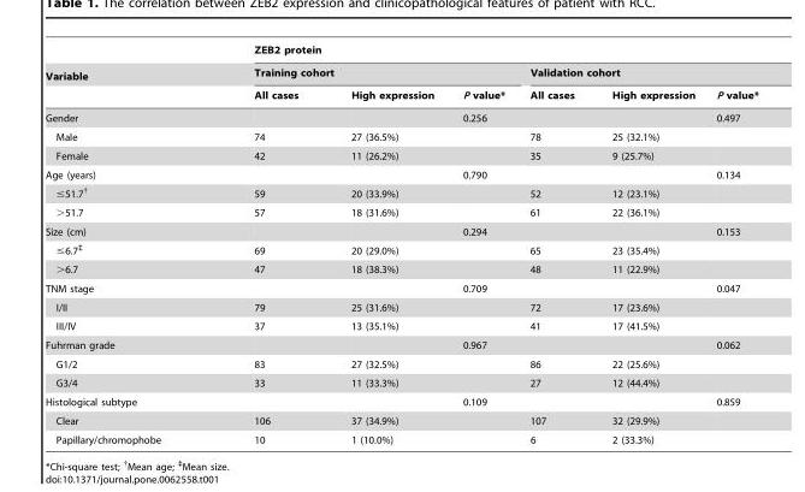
<table><thead><tr><td rowspan="3">Variable</td><td colspan="6">ZEB2 protein</td></tr><tr><td colspan="3">Training cohort</td><td colspan="3">Validation cohort</td></tr><tr><td>All cases</td><td>High expression</td><td>P value*</td><td>All cases</td><td>High expression</td><td>P value*</td></tr></thead><tbody><tr><td>Gender</td><td></td><td></td><td>0.256</td><td></td><td></td><td>0.497</td></tr><tr><td>Male</td><td>74</td><td>27 (36.5%)</td><td></td><td>78</td><td>25 (32.1%)</td><td></td></tr><tr><td>Female</td><td>42</td><td>11 (26.2%)</td><td></td><td>35</td><td>9 (25.7%)</td><td></td></tr><tr><td>Age (years)</td><td></td><td></td><td>0.790</td><td></td><td></td><td>0.134</td></tr><tr><td>≤51.7<sup>†</sup></td><td>59</td><td>20 (33.9%)</td><td></td><td>52</td><td>12 (23.1%)</td><td></td></tr><tr><td>&gt;51.7</td><td>57</td><td>18 (31.6%)</td><td></td><td>61</td><td>22 (36.1%)</td><td></td></tr><tr><td>Size (cm)</td><td></td><td></td><td>0.294</td><td></td><td></td><td>0.153</td></tr><tr><td>≤6.7<sup>‡</sup></td><td>69</td><td>20 (29.0%)</td><td></td><td>65</td><td>23 (35.4%)</td><td></td></tr><tr><td>&gt;6.7</td><td>47</td><td>18 (38.3%)</td><td></td><td>48</td><td>11 (22.9%)</td><td></td></tr><tr><td>TNM stage</td><td></td><td></td><td>0.709</td><td></td><td></td><td>0.047</td></tr><tr><td>I/II</td><td>79</td><td>25 (31.6%)</td><td></td><td>72</td><td>17 (23.6%)</td><td></td></tr><tr><td>III/IV</td><td>37</td><td>13 (35.1%)</td><td></td><td>41</td><td>17 (41.5%)</td><td></td></tr><tr><td>Fuhrman grade</td><td></td><td></td><td>0.967</td><td></td><td></td><td>0.062</td></tr><tr><td>G1/2</td><td>83</td><td>27 (32.5%)</td><td></td><td>86</td><td>22 (25.6%)</td><td></td></tr><tr><td>G3/4</td><td>33</td><td>11 (33.3%)</td><td></td><td>27</td><td>12 (44.4%)</td><td></td></tr><tr><td>Histological subtype</td><td></td><td></td><td>0.109</td><td></td><td></td><td>0.859</td></tr><tr><td>Clear</td><td>106</td><td>37 (34.9%)</td><td></td><td>107</td><td>32 (29.9%)</td><td></td></tr><tr><td>Papillary/chromophobe</td><td>10</td><td>1 (10.0%)</td><td></td><td>6</td><td>2 (33.3%)</td><td></td></tr></tbody></table>